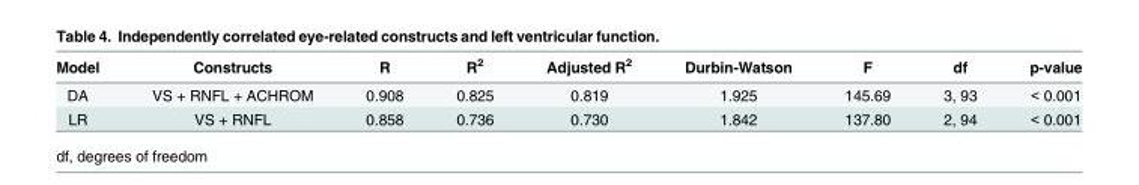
<table><thead><tr><td>Model</td><td>Constructs</td><td>R</td><td>R<sup>2</sup></td><td>Adjusted R<sup>2</sup></td><td>Durbin-Watson</td><td>F</td><td>df</td><td>p-value</td></tr></thead><tbody><tr><td>DA</td><td>VS + RNFL + ACHROM</td><td>0.908</td><td>0.825</td><td>0.819</td><td>1.925</td><td>145.69</td><td>3, 93</td><td>&lt; 0.001</td></tr><tr><td>LR</td><td>VS + RNFL</td><td>0.858</td><td>0.736</td><td>0.730</td><td>1.842</td><td>137.80</td><td>2, 94</td><td>&lt; 0.001</td></tr></tbody></table>